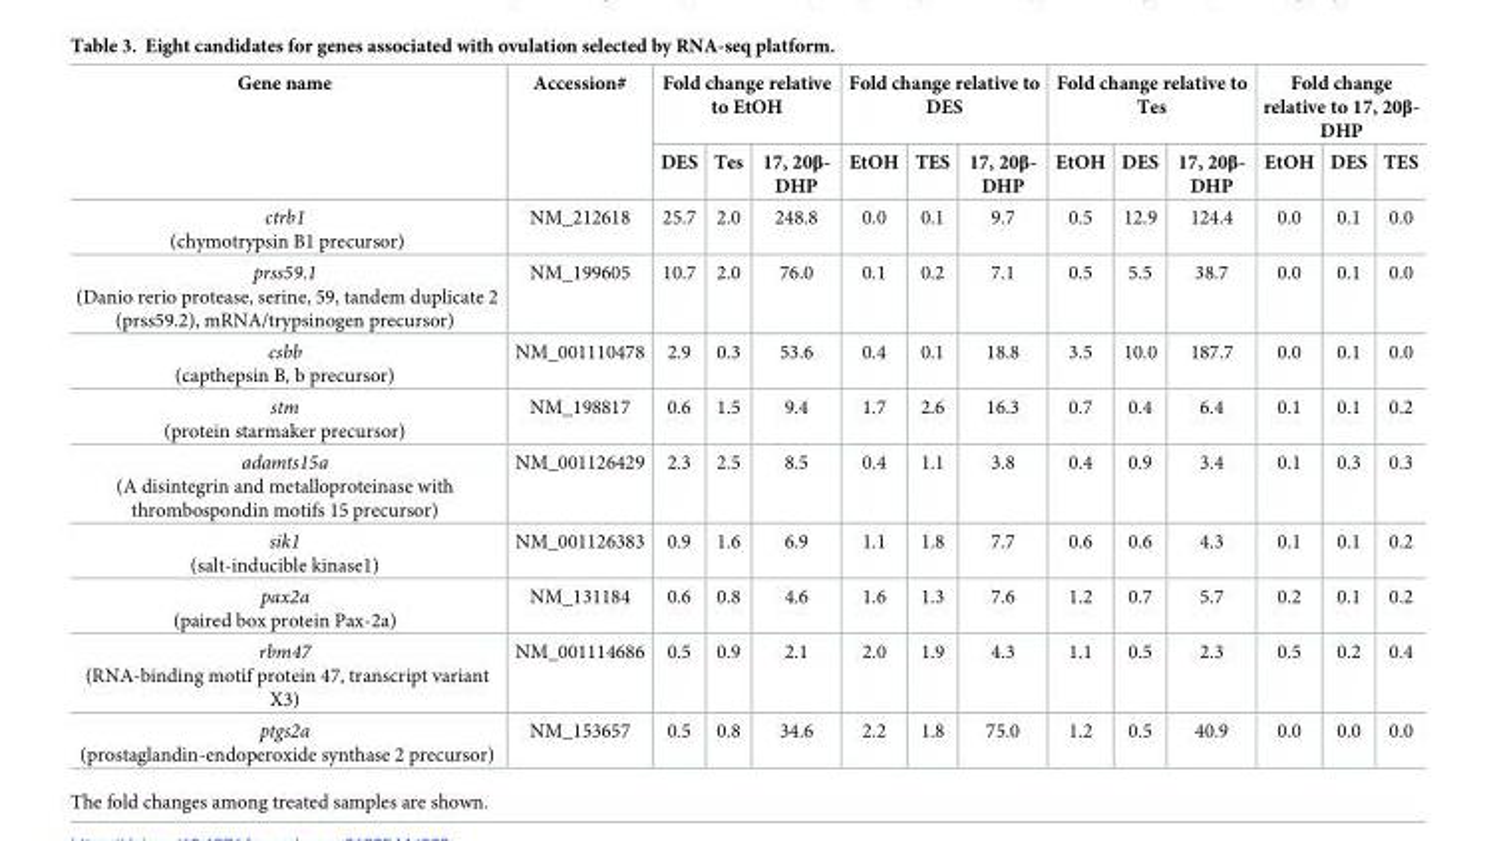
<table><thead><tr><td rowspan="2">Gene name</td><td rowspan="2">Accession#</td><td colspan="3">Fold change relative to EtOH</td><td colspan="3">Fold change relative to DES</td><td colspan="3">Fold change relative to Tes</td><td colspan="3">Fold change relative to 17, 20β- DHP</td></tr><tr><td>DES</td><td>Tes</td><td>17, 20β- DHP</td><td>EtOH</td><td>TES</td><td>17, 20β- DHP</td><td>EtOH</td><td>DES</td><td>17, 20β- DHP</td><td>EtOH</td><td>DES</td><td>TES</td></tr></thead><tbody><tr><td>ctrb1 (chymotrypsin B1 precursor)</td><td>NM_212618</td><td>25.7</td><td>2.0</td><td>248.8</td><td>0.0</td><td>0.1</td><td>9.7</td><td>0.5</td><td>12.9</td><td>124.4</td><td>0.0</td><td>0.1</td><td>0.0</td></tr><tr><td>prss59.1 (Danio rerio protease, serine, 59, tandem duplicate 2 (prss59.2), mRNA/trypsinogen precursor)</td><td>NM_199605</td><td>10.7</td><td>2.0</td><td>76.0</td><td>0.1</td><td>0.2</td><td>7.1</td><td>0.5</td><td>5.5</td><td>38.7</td><td>0.0</td><td>0.1</td><td>0.0</td></tr><tr><td>csbb (capthepsin B, b precursor)</td><td>NM_001110478</td><td>2.9</td><td>0.3</td><td>53.6</td><td>0.4</td><td>0.1</td><td>18.8</td><td>3.5</td><td>10.0</td><td>187.7</td><td>0.0</td><td>0.1</td><td>0.0</td></tr><tr><td>stm (protein starmaker precursor)</td><td>NM_198817</td><td>0.6</td><td>1.5</td><td>9.4</td><td>1.7</td><td>2.6</td><td>16.3</td><td>0.7</td><td>0.4</td><td>6.4</td><td>0.1</td><td>0.1</td><td>0.2</td></tr><tr><td>adamts15a (A disintegrin and metalloproteinase with thrombospondin motifs 15 precursor)</td><td>NM_001126429</td><td>2.3</td><td>2.5</td><td>8.5</td><td>0.4</td><td>1.1</td><td>3.8</td><td>0.4</td><td>0.9</td><td>3.4</td><td>0.1</td><td>0.3</td><td>0.3</td></tr><tr><td>sik1 (salt-inducible kinase1)</td><td>NM_001126383</td><td>0.9</td><td>1.6</td><td>6.9</td><td>1.1</td><td>1.8</td><td>7.7</td><td>0.6</td><td>0.6</td><td>4.3</td><td>0.1</td><td>0.1</td><td>0.2</td></tr><tr><td>pax2a (paired box protein Pax-2a)</td><td>NM_131184</td><td>0.6</td><td>0.8</td><td>4.6</td><td>1.6</td><td>1.3</td><td>7.6</td><td>1.2</td><td>0.7</td><td>5.7</td><td>0.2</td><td>0.1</td><td>0.2</td></tr><tr><td>rbm47 (RNA-binding motif protein 47, transcript variant X3)</td><td>NM_001114686</td><td>0.5</td><td>0.9</td><td>2.1</td><td>2.0</td><td>1.9</td><td>4.3</td><td>1.1</td><td>0.5</td><td>2.3</td><td>0.5</td><td>0.2</td><td>0.4</td></tr><tr><td>ptgs2a (prostaglandin-endoperoxide synthase 2 precursor)</td><td>NM_153657</td><td>0.5</td><td>0.8</td><td>34.6</td><td>2.2</td><td>1.8</td><td>75.0</td><td>1.2</td><td>0.5</td><td>40.9</td><td>0.0</td><td>0.0</td><td>0.0</td></tr></tbody></table>